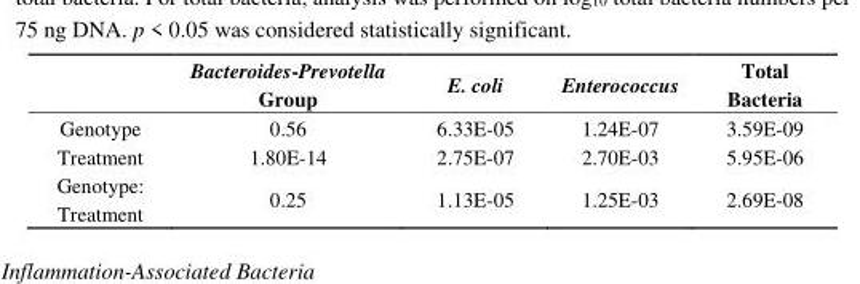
<table><thead><tr><td></td><td>Bacteroides-Prevotella Group</td><td>E. coli</td><td>Enterococcus</td><td>Total Bacteria</td></tr></thead><tbody><tr><td>Genotype</td><td>0.56</td><td>6.33E-05</td><td>1.24E-07</td><td>3.59E-09</td></tr><tr><td>Treatment</td><td>1.80E-14</td><td>2.75E-07</td><td>2.70E-03</td><td>5.95E-06</td></tr><tr><td>Genotype: Treatment</td><td>0.25</td><td>1.13E-05</td><td>1.25E-03</td><td>2.69E-08</td></tr></tbody></table>